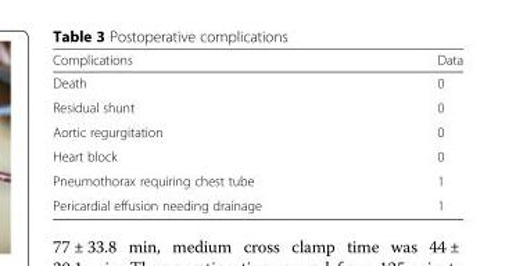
<table><thead><tr><td>Complications</td><td>Data</td></tr></thead><tbody><tr><td>Death</td><td>0</td></tr><tr><td>Residual shunt</td><td>0</td></tr><tr><td>Aortic regurgitation</td><td>0</td></tr><tr><td>Heart block</td><td>0</td></tr><tr><td>Pneumothorax requiring chest tube</td><td>1</td></tr><tr><td>Pericardial effusion needing drainage</td><td>1</td></tr></tbody></table>